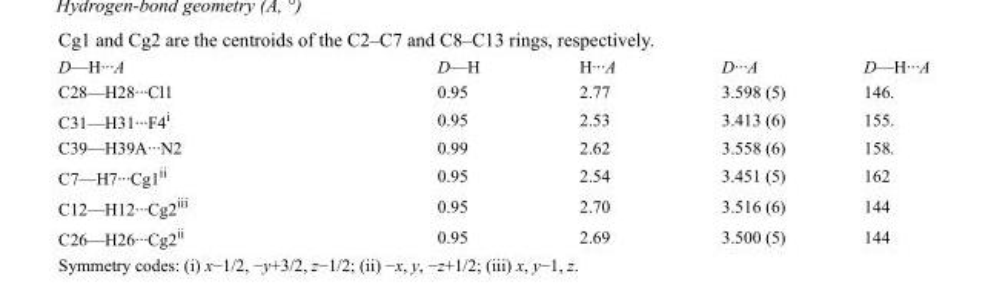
<table><tbody><tr><td>D—H···A</td><td>D—H</td><td>H···A</td><td>D···A</td><td>D—H···A</td></tr><tr><td>C28—H28···Cl1</td><td>0.95</td><td>2.77</td><td>3.598 (5)</td><td>146.</td></tr><tr><td>C31—H31···F4<sup>i</sup></td><td>0.95</td><td>2.53</td><td>3.413 (6)</td><td>155.</td></tr><tr><td>C39—H39A···N2</td><td>0.99</td><td>2.62</td><td>3.558 (6)</td><td>158.</td></tr><tr><td>C7—H7···Cg1<sup>ii</sup></td><td>0.95</td><td>2.54</td><td>3.451 (5)</td><td>162</td></tr><tr><td>C12—H12···Cg2<sup>iii</sup></td><td>0.95</td><td>2.70</td><td>3.516 (6)</td><td>144</td></tr><tr><td>C26—H26···Cg2<sup>ii</sup></td><td>0.95</td><td>2.69</td><td>3.500 (5)</td><td>144</td></tr></tbody></table>